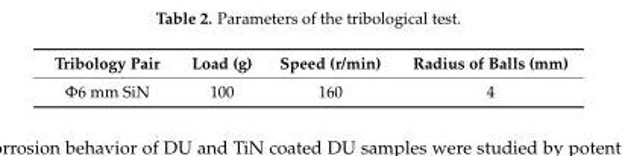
<table><thead><tr><td>Tribology Pair</td><td>Load (g)</td><td>Speed (r/min)</td><td>Radius of Balls (mm)</td></tr></thead><tbody><tr><td>Φ6 mm SiN</td><td>100</td><td>160</td><td>4</td></tr></tbody></table>